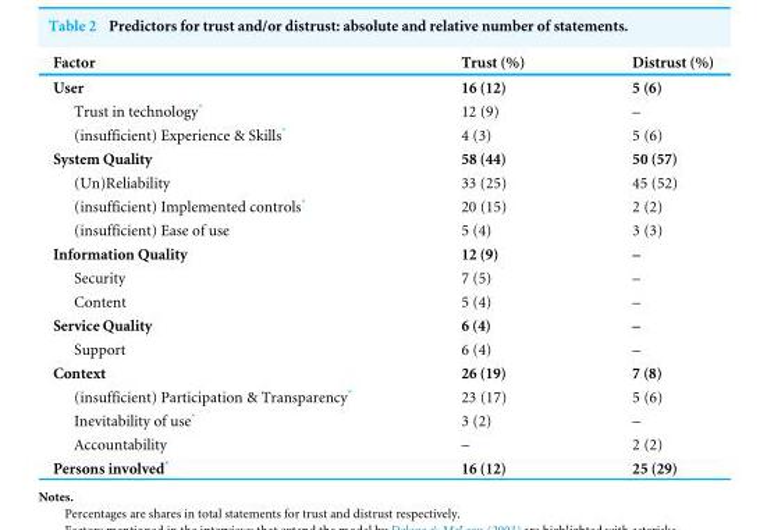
<table><thead><tr><td>Factor</td><td>Trust (%)</td><td>Distrust (%)</td></tr></thead><tbody><tr><td>User</td><td>16 (12)</td><td>5 (6)</td></tr><tr><td>Trust in technology*</td><td>12 (9)</td><td>–</td></tr><tr><td>(insufficient) Experience &amp; Skills*</td><td>4 (3)</td><td>5 (6)</td></tr><tr><td>System Quality</td><td>58 (44)</td><td>50 (57)</td></tr><tr><td>(Un)Reliability</td><td>33 (25)</td><td>45 (52)</td></tr><tr><td>(insufficient) Implemented controls*</td><td>20 (15)</td><td>2 (2)</td></tr><tr><td>(insufficient) Ease of use</td><td>5 (4)</td><td>3 (3)</td></tr><tr><td>Information Quality</td><td>12 (9)</td><td>–</td></tr><tr><td>Security</td><td>7 (5)</td><td>–</td></tr><tr><td>Content</td><td>5 (4)</td><td>–</td></tr><tr><td>Service Quality</td><td>6 (4)</td><td>–</td></tr><tr><td>Support</td><td>6 (4)</td><td>–</td></tr><tr><td>Context</td><td>26 (19)</td><td>7 (8)</td></tr><tr><td>(insufficient) Participation &amp; Transparency*</td><td>23 (17)</td><td>5 (6)</td></tr><tr><td>Inevitability of use*</td><td>3 (2)</td><td>–</td></tr><tr><td>Accountability</td><td>–</td><td>2 (2)</td></tr><tr><td>Persons involved*</td><td>16 (12)</td><td>25 (29)</td></tr></tbody></table>